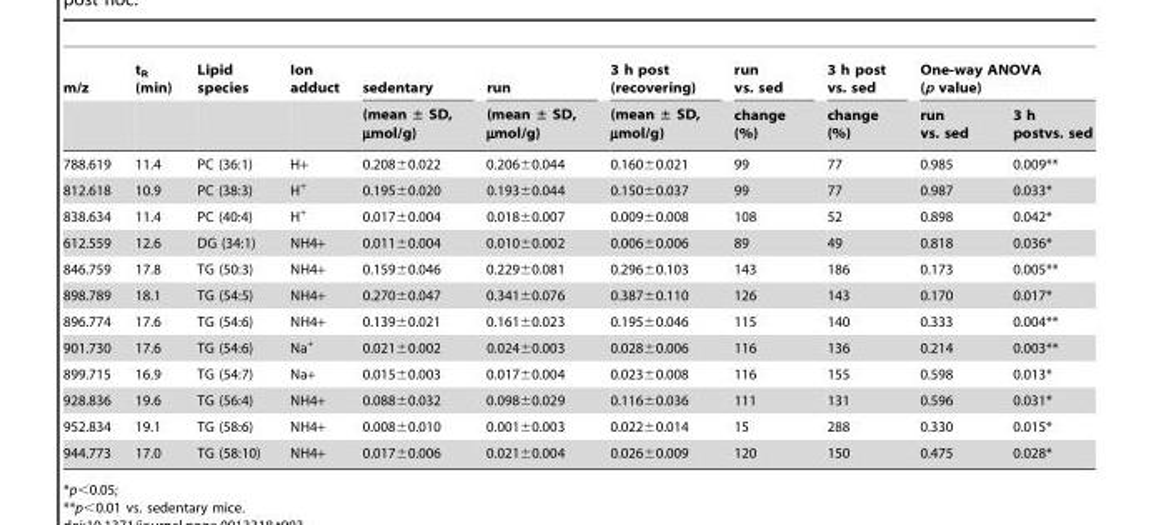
<table><thead><tr><td rowspan="2">m/z</td><td rowspan="2">t<sub>R</sub> (min)</td><td rowspan="2">Lipid species</td><td rowspan="2">Ion adduct</td><td rowspan="2">sedentary (mean ± SD, µmol/g)</td><td rowspan="2">run (mean ± SD, µmol/g)</td><td rowspan="2">3 h post (recovering) (mean ± SD, µmol/g)</td><td rowspan="2">run vs. sed change (%)</td><td rowspan="2">3 h post vs. sed change (%)</td><td colspan="2">One-way ANOVA (p value)</td></tr><tr><td>run vs. sed</td><td>3 h postvs. sed</td></tr></thead><tbody><tr><td>788.619</td><td>11.4</td><td>PC (36:1)</td><td>H+</td><td>0.208±0.022</td><td>0.206±0.044</td><td>0.160±0.021</td><td>99</td><td>77</td><td>0.985</td><td>0.009**</td></tr><tr><td>812.618</td><td>10.9</td><td>PC (38:3)</td><td>H<sup>+</sup></td><td>0.195±0.020</td><td>0.193±0.044</td><td>0.150±0.037</td><td>99</td><td>77</td><td>0.987</td><td>0.033*</td></tr><tr><td>838.634</td><td>11.4</td><td>PC (40:4)</td><td>H<sup>+</sup></td><td>0.017±0.004</td><td>0.018±0.007</td><td>0.009±0.008</td><td>108</td><td>52</td><td>0.898</td><td>0.042*</td></tr><tr><td>612.559</td><td>12.6</td><td>DG (34:1)</td><td>NH4+</td><td>0.011±0.004</td><td>0.010±0.002</td><td>0.006±0.006</td><td>89</td><td>49</td><td>0.818</td><td>0.036*</td></tr><tr><td>846.759</td><td>17.8</td><td>TG (50:3)</td><td>NH4+</td><td>0.159±0.046</td><td>0.229±0.081</td><td>0.296±0.103</td><td>143</td><td>186</td><td>0.173</td><td>0.005**</td></tr><tr><td>898.789</td><td>18.1</td><td>TG (54:5)</td><td>NH4+</td><td>0.270±0.047</td><td>0.341±0.076</td><td>0.387±0.110</td><td>126</td><td>143</td><td>0.170</td><td>0.017*</td></tr><tr><td>896.774</td><td>17.6</td><td>TG (54:6)</td><td>NH4+</td><td>0.139±0.021</td><td>0.161±0.023</td><td>0.195±0.046</td><td>115</td><td>140</td><td>0.333</td><td>0.004**</td></tr><tr><td>901.730</td><td>17.6</td><td>TG (54:6)</td><td>Na<sup>+</sup></td><td>0.021±0.002</td><td>0.024±0.003</td><td>0.028±0.006</td><td>116</td><td>136</td><td>0.214</td><td>0.003**</td></tr><tr><td>899.715</td><td>16.9</td><td>TG (54:7)</td><td>Na+</td><td>0.015±0.003</td><td>0.017±0.004</td><td>0.023±0.008</td><td>116</td><td>155</td><td>0.598</td><td>0.013*</td></tr><tr><td>928.836</td><td>19.6</td><td>TG (56:4)</td><td>NH4+</td><td>0.088±0.032</td><td>0.098±0.029</td><td>0.116±0.036</td><td>111</td><td>131</td><td>0.596</td><td>0.031*</td></tr><tr><td>952.834</td><td>19.1</td><td>TG (58:6)</td><td>NH4+</td><td>0.008±0.010</td><td>0.001±0.003</td><td>0.022±0.014</td><td>15</td><td>288</td><td>0.330</td><td>0.015*</td></tr><tr><td>944.773</td><td>17.0</td><td>TG (58:10)</td><td>NH4+</td><td>0.017±0.006</td><td>0.021±0.004</td><td>0.026±0.009</td><td>120</td><td>150</td><td>0.475</td><td>0.028*</td></tr></tbody></table>